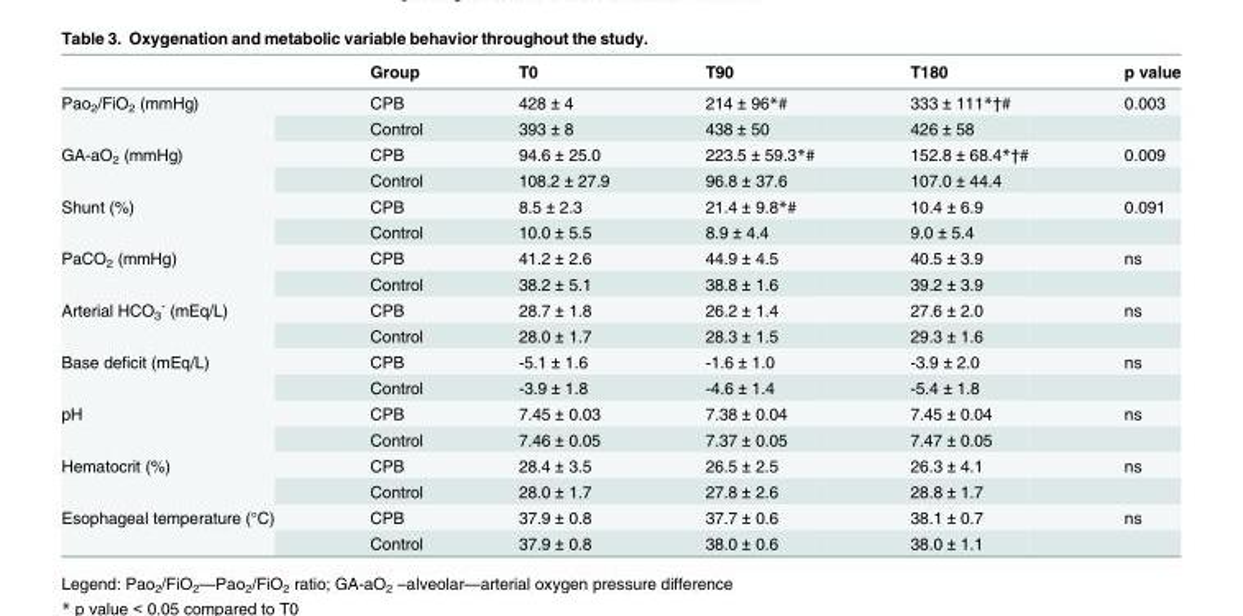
<table><thead><tr><td></td><td>Group</td><td>T0</td><td>T90</td><td>T180</td><td>p value</td></tr></thead><tbody><tr><td rowspan="2">Pao<sub>2</sub>/FiO<sub>2</sub> (mmHg)</td><td>CPB</td><td>428 ± 4</td><td>214 ± 96*#</td><td>333 ± 111*†#</td><td>0.003</td></tr><tr><td>Control</td><td>393 ± 8</td><td>438 ± 50</td><td>426 ± 58</td><td></td></tr><tr><td rowspan="2">GA-aO<sub>2</sub> (mmHg)</td><td>CPB</td><td>94.6 ± 25.0</td><td>223.5 ± 59.3*#</td><td>152.8 ± 68.4*†#</td><td>0.009</td></tr><tr><td>Control</td><td>108.2 ± 27.9</td><td>96.8 ± 37.6</td><td>107.0 ± 44.4</td><td></td></tr><tr><td rowspan="2">Shunt (%)</td><td>CPB</td><td>8.5 ± 2.3</td><td>21.4 ± 9.8*#</td><td>10.4 ± 6.9</td><td>0.091</td></tr><tr><td>Control</td><td>10.0 ± 5.5</td><td>8.9 ± 4.4</td><td>9.0 ± 5.4</td><td></td></tr><tr><td rowspan="2">PaCO<sub>2</sub> (mmHg)</td><td>CPB</td><td>41.2 ± 2.6</td><td>44.9 ± 4.5</td><td>40.5 ± 3.9</td><td>ns</td></tr><tr><td>Control</td><td>38.2 ± 5.1</td><td>38.8 ± 1.6</td><td>39.2 ± 3.9</td><td></td></tr><tr><td rowspan="2">Arterial HCO<sub>3</sub> <sup>-</sup> (mEq/L)</td><td>CPB</td><td>28.7 ± 1.8</td><td>26.2 ± 1.4</td><td>27.6 ± 2.0</td><td>ns</td></tr><tr><td>Control</td><td>28.0 ± 1.7</td><td>28.3 ± 1.5</td><td>29.3 ± 1.6</td><td></td></tr><tr><td rowspan="2">Base deficit (mEq/L)</td><td>CPB</td><td>-5.1 ± 1.6</td><td>-1.6 ± 1.0</td><td>-3.9 ± 2.0</td><td>ns</td></tr><tr><td>Control</td><td>-3.9 ± 1.8</td><td>-4.6 ± 1.4</td><td>-5.4 ± 1.8</td><td></td></tr><tr><td rowspan="2">pH</td><td>CPB</td><td>7.45 ± 0.03</td><td>7.38 ± 0.04</td><td>7.45 ± 0.04</td><td>ns</td></tr><tr><td>Control</td><td>7.46 ± 0.05</td><td>7.37 ± 0.05</td><td>7.47 ± 0.05</td><td></td></tr><tr><td rowspan="2">Hematocrit (%)</td><td>CPB</td><td>28.4 ± 3.5</td><td>26.5 ± 2.5</td><td>26.3 ± 4.1</td><td>ns</td></tr><tr><td>Control</td><td>28.0 ± 1.7</td><td>27.8 ± 2.6</td><td>28.8 ± 1.7</td><td></td></tr><tr><td rowspan="2">Esophageal temperature (°C)</td><td>CPB</td><td>37.9 ± 0.8</td><td>37.7 ± 0.6</td><td>38.1 ± 0.7</td><td>ns</td></tr><tr><td>Control</td><td>37.9 ± 0.8</td><td>38.0 ± 0.6</td><td>38.0 ± 1.1</td><td></td></tr></tbody></table>